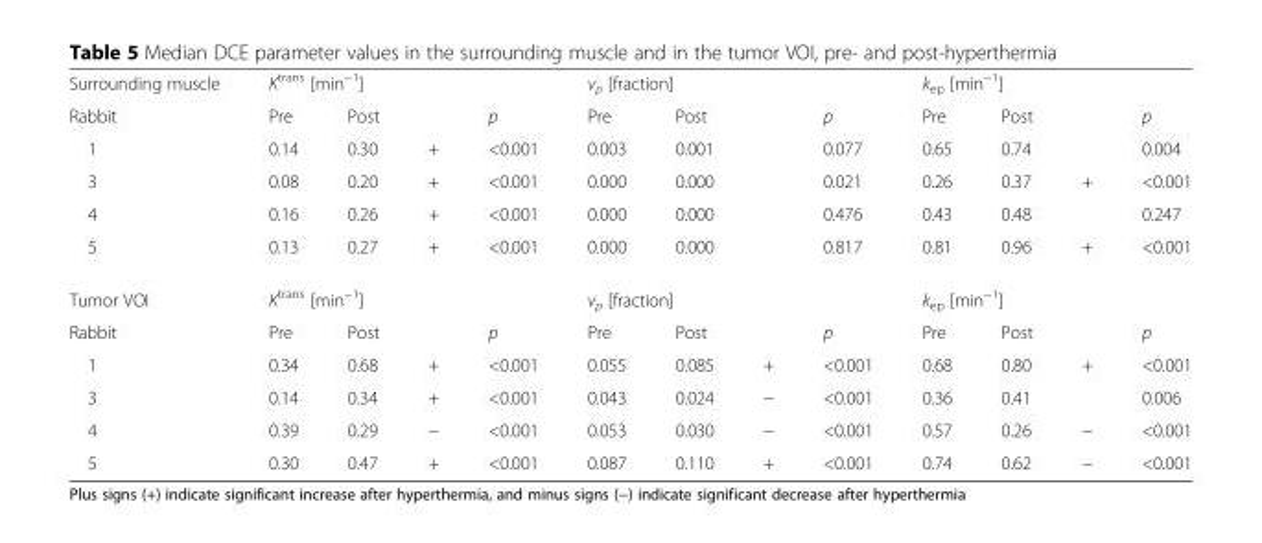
<table><tbody><tr><td>Surrounding muscle</td><td colspan="4">K<sup>trans</sup> [min<sup>−1</sup>]</td><td colspan="4">v<sub>p</sub> [fraction]</td><td colspan="4">k<sub>ep</sub> [min<sup>−1</sup>]</td></tr><tr><td>Rabbit</td><td>Pre</td><td>Post</td><td></td><td>p</td><td>Pre</td><td>Post</td><td></td><td>p</td><td>Pre</td><td>Post</td><td></td><td>p</td></tr><tr><td>1</td><td>0.14</td><td>0.30</td><td>+</td><td>&lt;0.001</td><td>0.003</td><td>0.001</td><td></td><td>0.077</td><td>0.65</td><td>0.74</td><td></td><td>0.004</td></tr><tr><td>3</td><td>0.08</td><td>0.20</td><td>+</td><td>&lt;0.001</td><td>0.000</td><td>0.000</td><td></td><td>0.021</td><td>0.26</td><td>0.37</td><td>+</td><td>&lt;0.001</td></tr><tr><td>4</td><td>0.16</td><td>0.26</td><td>+</td><td>&lt;0.001</td><td>0.000</td><td>0.000</td><td></td><td>0.476</td><td>0.43</td><td>0.48</td><td></td><td>0.247</td></tr><tr><td>5</td><td>0.13</td><td>0.27</td><td>+</td><td>&lt;0.001</td><td>0.000</td><td>0.000</td><td></td><td>0.817</td><td>0.81</td><td>0.96</td><td>+</td><td>&lt;0.001</td></tr><tr><td>Tumor VOI</td><td colspan="4">K<sup>trans</sup> [min<sup>−1</sup>]</td><td colspan="4">v<sub>p</sub> [fraction]</td><td colspan="4">k<sub>ep</sub> [min<sup>−1</sup>]</td></tr><tr><td>Rabbit</td><td>Pre</td><td>Post</td><td></td><td>p</td><td>Pre</td><td>Post</td><td></td><td>p</td><td>Pre</td><td>Post</td><td></td><td>p</td></tr><tr><td>1</td><td>0.34</td><td>0.68</td><td>+</td><td>&lt;0.001</td><td>0.055</td><td>0.085</td><td>+</td><td>&lt;0.001</td><td>0.68</td><td>0.80</td><td>+</td><td>&lt;0.001</td></tr><tr><td>3</td><td>0.14</td><td>0.34</td><td>+</td><td>&lt;0.001</td><td>0.043</td><td>0.024</td><td>−</td><td>&lt;0.001</td><td>0.36</td><td>0.41</td><td></td><td>0.006</td></tr><tr><td>4</td><td>0.39</td><td>0.29</td><td>−</td><td>&lt;0.001</td><td>0.053</td><td>0.030</td><td>−</td><td>&lt;0.001</td><td>0.57</td><td>0.26</td><td>−</td><td>&lt;0.001</td></tr><tr><td>5</td><td>0.30</td><td>0.47</td><td>+</td><td>&lt;0.001</td><td>0.087</td><td>0.110</td><td>+</td><td>&lt;0.001</td><td>0.74</td><td>0.62</td><td>−</td><td>&lt;0.001</td></tr></tbody></table>